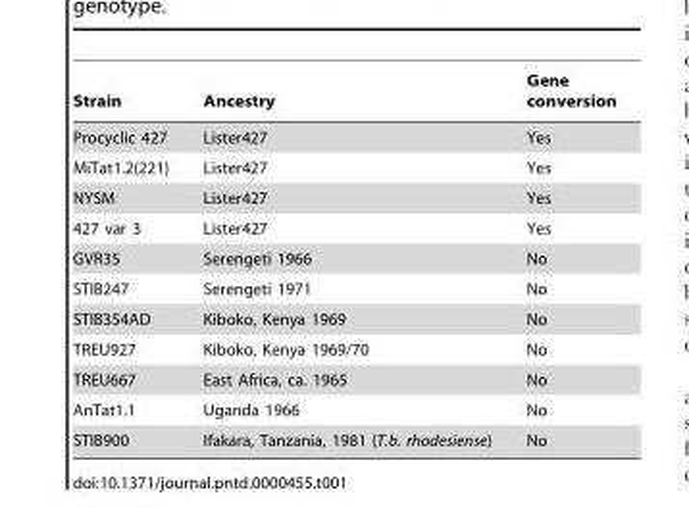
<table><thead><tr><td>Strain</td><td>Ancestry</td><td>Gene conversion</td></tr></thead><tbody><tr><td>Procyclic 427</td><td>Lister427</td><td>Yes</td></tr><tr><td>MiTat1.2(221)</td><td>Lister427</td><td>Yes</td></tr><tr><td>NYSM</td><td>Lister427</td><td>Yes</td></tr><tr><td>427 var 3</td><td>Lister427</td><td>Yes</td></tr><tr><td>GVR35</td><td>Serengeti 1966</td><td>No</td></tr><tr><td>STIB247</td><td>Serengeti 1971</td><td>No</td></tr><tr><td>STIB354AD</td><td>Kiboko, Kenya 1969</td><td>No</td></tr><tr><td>TREU927</td><td>Kiboko, Kenya 1969/70</td><td>No</td></tr><tr><td>TREU667</td><td>East Africa, ca. 1965</td><td>No</td></tr><tr><td>AnTat1.1</td><td>Uganda 1966</td><td>No</td></tr><tr><td>STIB900</td><td>Ifakara, Tanzania, 1981 (T.b. rhodesiense)</td><td>No</td></tr></tbody></table>